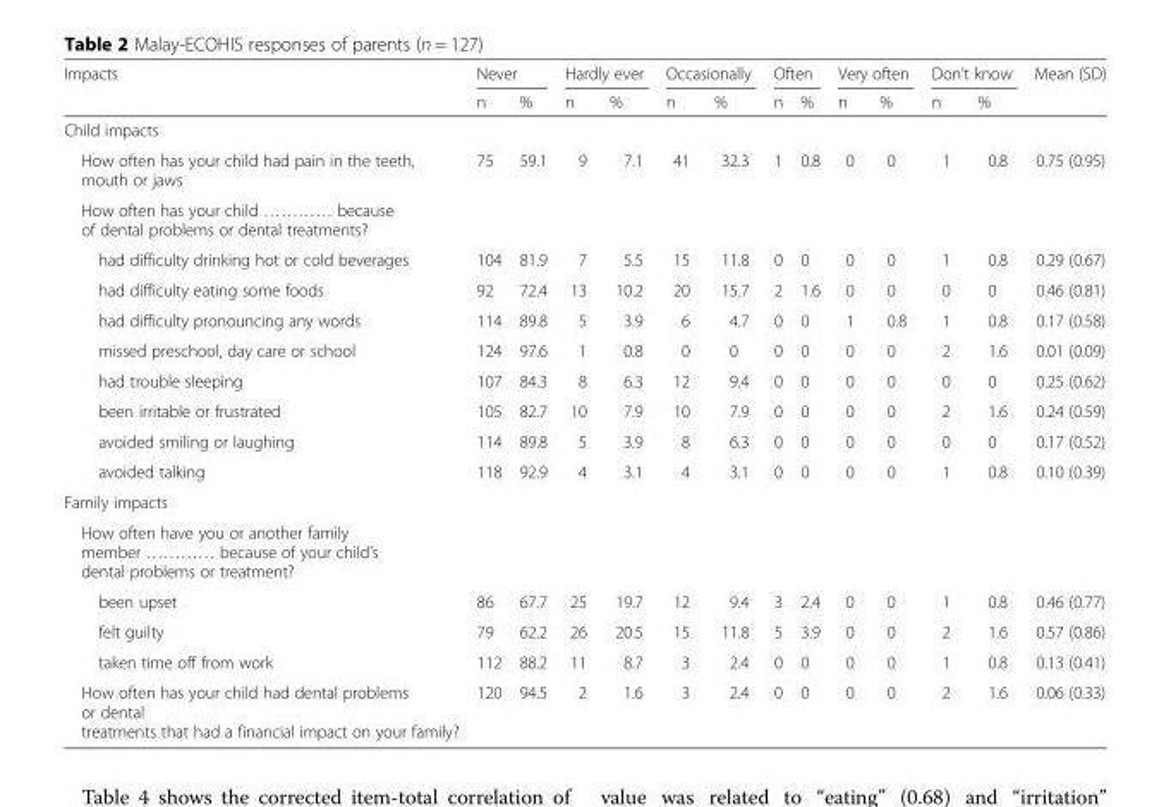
<table><thead><tr><td rowspan="2">Impacts</td><td colspan="2">Never</td><td colspan="2">Hardly ever</td><td colspan="2">Occasionally</td><td colspan="2">Often</td><td colspan="2">Very often</td><td colspan="2">Don’t know</td><td rowspan="2">Mean (SD)</td></tr><tr><td>n</td><td>%</td><td>n</td><td>%</td><td>n</td><td>%</td><td>n</td><td>%</td><td>n</td><td>%</td><td>n</td><td>%</td></tr></thead><tbody><tr><td colspan="14">Child impacts</td></tr><tr><td>How often has your child had pain in the teeth, mouth or jaws</td><td>75</td><td>59.1</td><td>9</td><td>7.1</td><td>41</td><td>32.3</td><td>1</td><td>0.8</td><td>0</td><td>0</td><td>1</td><td>0.8</td><td>0.75 (0.95)</td></tr><tr><td colspan="14">How often has your child ………… because of dental problems or dental treatments?</td></tr><tr><td>had difficulty drinking hot or cold beverages</td><td>104</td><td>81.9</td><td>7</td><td>5.5</td><td>15</td><td>11.8</td><td>0</td><td>0</td><td>0</td><td>0</td><td>1</td><td>0.8</td><td>0.29 (0.67)</td></tr><tr><td>had difficulty eating some foods</td><td>92</td><td>72.4</td><td>13</td><td>10.2</td><td>20</td><td>15.7</td><td>2</td><td>1.6</td><td>0</td><td>0</td><td>0</td><td>0</td><td>0.46 (0.81)</td></tr><tr><td>had difficulty pronouncing any words</td><td>114</td><td>89.8</td><td>5</td><td>3.9</td><td>6</td><td>4.7</td><td>0</td><td>0</td><td>1</td><td>0.8</td><td>1</td><td>0.8</td><td>0.17 (0.58)</td></tr><tr><td>missed preschool, day care or school</td><td>124</td><td>97.6</td><td>1</td><td>0.8</td><td>0</td><td>0</td><td>0</td><td>0</td><td>0</td><td>0</td><td>2</td><td>1.6</td><td>0.01 (0.09)</td></tr><tr><td>had trouble sleeping</td><td>107</td><td>84.3</td><td>8</td><td>6.3</td><td>12</td><td>9.4</td><td>0</td><td>0</td><td>0</td><td>0</td><td>0</td><td>0</td><td>0.25 (0.62)</td></tr><tr><td>been irritable or frustrated</td><td>105</td><td>82.7</td><td>10</td><td>7.9</td><td>10</td><td>7.9</td><td>0</td><td>0</td><td>0</td><td>0</td><td>2</td><td>1.6</td><td>0.24 (0.59)</td></tr><tr><td>avoided smiling or laughing</td><td>114</td><td>89.8</td><td>5</td><td>3.9</td><td>8</td><td>6.3</td><td>0</td><td>0</td><td>0</td><td>0</td><td>0</td><td>0</td><td>0.17 (0.52)</td></tr><tr><td>avoided talking</td><td>118</td><td>92.9</td><td>4</td><td>3.1</td><td>4</td><td>3.1</td><td>0</td><td>0</td><td>0</td><td>0</td><td>1</td><td>0.8</td><td>0.10 (0.39)</td></tr><tr><td colspan="14">Family impacts</td></tr><tr><td colspan="14">How often have you or another family member ………… because of your child’s dental problems or treatment?</td></tr><tr><td>been upset</td><td>86</td><td>67.7</td><td>25</td><td>19.7</td><td>12</td><td>9.4</td><td>3</td><td>2.4</td><td>0</td><td>0</td><td>1</td><td>0.8</td><td>0.46 (0.77)</td></tr><tr><td>felt guilty</td><td>79</td><td>62.2</td><td>26</td><td>20.5</td><td>15</td><td>11.8</td><td>5</td><td>3.9</td><td>0</td><td>0</td><td>2</td><td>1.6</td><td>0.57 (0.86)</td></tr><tr><td>taken time off from work</td><td>112</td><td>88.2</td><td>11</td><td>8.7</td><td>3</td><td>2.4</td><td>0</td><td>0</td><td>0</td><td>0</td><td>1</td><td>0.8</td><td>0.13 (0.41)</td></tr><tr><td>How often has your child had dental problems or dental treatments that had a financial impact on your family?</td><td>120</td><td>94.5</td><td>2</td><td>1.6</td><td>3</td><td>2.4</td><td>0</td><td>0</td><td>0</td><td>0</td><td>2</td><td>1.6</td><td>0.06 (0.33)</td></tr></tbody></table>